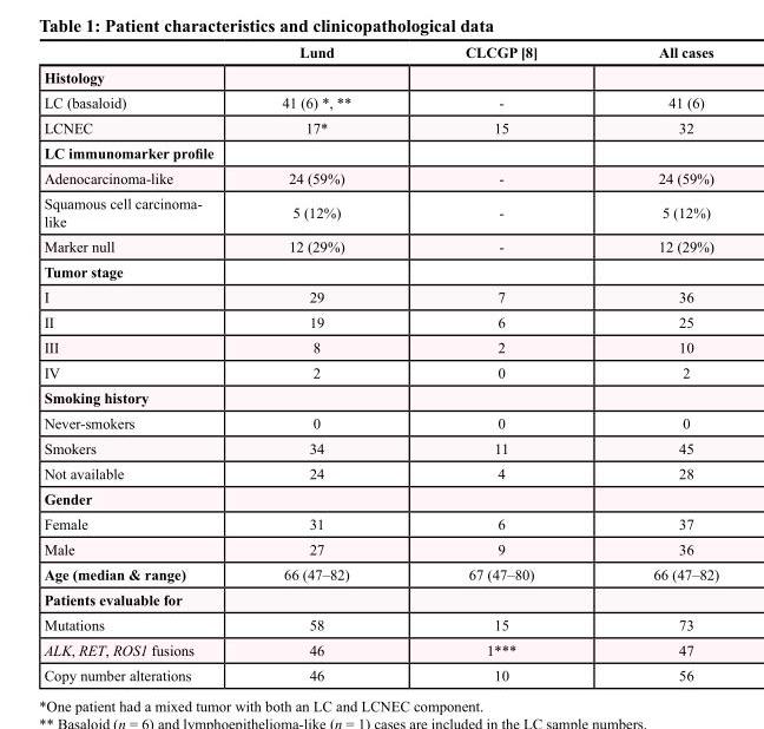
<table><thead><tr><td></td><td>Lund</td><td>CLCGP [8]</td><td>All cases</td></tr></thead><tbody><tr><td colspan="4">Histology</td></tr><tr><td>LC (basaloid)</td><td>41 (6) *, **</td><td>-</td><td>41 (6)</td></tr><tr><td>LCNEC</td><td>17*</td><td>15</td><td>32</td></tr><tr><td colspan="4">LC immunomarker profile</td></tr><tr><td>Adenocarcinoma-like</td><td>24 (59%)</td><td>-</td><td>24 (59%)</td></tr><tr><td>Squamous cell carcinoma- like</td><td>5 (12%)</td><td>-</td><td>5 (12%)</td></tr><tr><td>Marker null</td><td>12 (29%)</td><td>-</td><td>12 (29%)</td></tr><tr><td colspan="4">Tumor stage</td></tr><tr><td>I</td><td>29</td><td>7</td><td>36</td></tr><tr><td>II</td><td>19</td><td>6</td><td>25</td></tr><tr><td>III</td><td>8</td><td>2</td><td>10</td></tr><tr><td>IV</td><td>2</td><td>0</td><td>2</td></tr><tr><td colspan="4">Smoking history</td></tr><tr><td>Never-smokers</td><td>0</td><td>0</td><td>0</td></tr><tr><td>Smokers</td><td>34</td><td>11</td><td>45</td></tr><tr><td>Not available</td><td>24</td><td>4</td><td>28</td></tr><tr><td colspan="4">Gender</td></tr><tr><td>Female</td><td>31</td><td>6</td><td>37</td></tr><tr><td>Male</td><td>27</td><td>9</td><td>36</td></tr><tr><td>Age (median &amp; range)</td><td>66 (47–82)</td><td>67 (47–80)</td><td>66 (47–82)</td></tr><tr><td colspan="4">Patients evaluable for</td></tr><tr><td>Mutations</td><td>58</td><td>15</td><td>73</td></tr><tr><td>ALK, RET, ROS1 fusions</td><td>46</td><td>1***</td><td>47</td></tr><tr><td>Copy number alterations</td><td>46</td><td>10</td><td>56</td></tr></tbody></table>